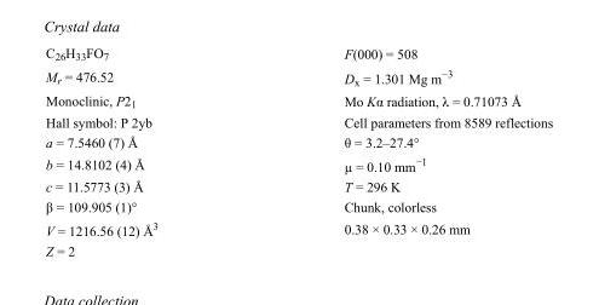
<table><tbody><tr><td>C<sub>26</sub>H<sub>33</sub>FO<sub>7</sub></td><td>F(000) = 508</td></tr><tr><td>M<sub>r</sub> = 476.52</td><td>D<sub>x</sub> = 1.301 Mg m<sup>−3</sup></td></tr><tr><td>Monoclinic, P2<sub>1</sub></td><td>Mo Kα radiation, λ = 0.71073 Å</td></tr><tr><td>Hall symbol: P 2yb</td><td>Cell parameters from 8589 reflections</td></tr><tr><td>a = 7.5460 (7) Å</td><td>θ = 3.2–27.4°</td></tr><tr><td>b = 14.8102 (4) Å</td><td>µ = 0.10 mm<sup>−1</sup></td></tr><tr><td>c = 11.5773 (3) Å</td><td>T = 296 K</td></tr><tr><td>β = 109.905 (1)°</td><td>Chunk, colorless</td></tr><tr><td>V = 1216.56 (12) Å<sup>3</sup></td><td>0.38 × 0.33 × 0.26 mm</td></tr><tr><td>Z = 2</td><td></td></tr></tbody></table>